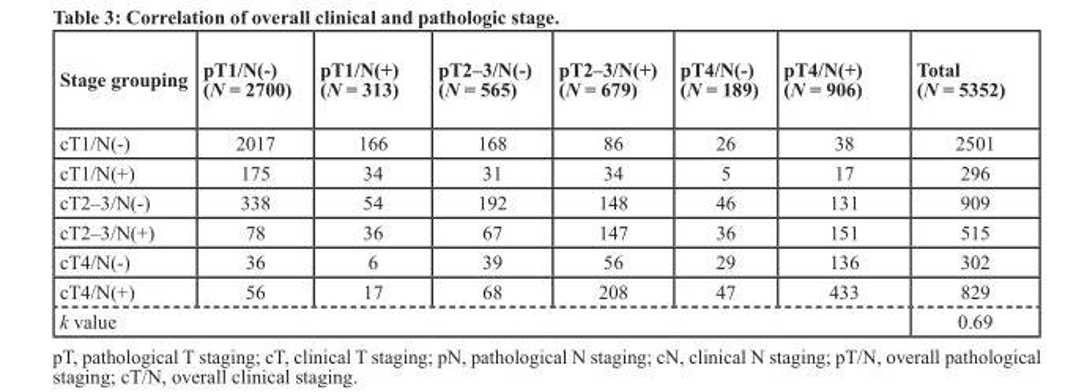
<table><thead><tr><td>Stage grouping</td><td>pT1/N(-) (N = 2700)</td><td>pT1/N(+) (N = 313)</td><td>pT2–3/N(-) (N = 565)</td><td>pT2–3/N(+) (N = 679)</td><td>pT4/N(-) (N = 189)</td><td>pT4/N(+) (N = 906)</td><td>Total (N = 5352)</td></tr></thead><tbody><tr><td>cT1/N(-)</td><td>2017</td><td>166</td><td>168</td><td>86</td><td>26</td><td>38</td><td>2501</td></tr><tr><td>cT1/N(+)</td><td>175</td><td>34</td><td>31</td><td>34</td><td>5</td><td>17</td><td>296</td></tr><tr><td>cT2–3/N(-)</td><td>338</td><td>54</td><td>192</td><td>148</td><td>46</td><td>131</td><td>909</td></tr><tr><td>cT2–3/N(+)</td><td>78</td><td>36</td><td>67</td><td>147</td><td>36</td><td>151</td><td>515</td></tr><tr><td>cT4/N(-)</td><td>36</td><td>6</td><td>39</td><td>56</td><td>29</td><td>136</td><td>302</td></tr><tr><td>cT4/N(+)</td><td>56</td><td>17</td><td>68</td><td>208</td><td>47</td><td>433</td><td>829</td></tr><tr><td colspan="7">k value</td><td>0.69</td></tr></tbody></table>